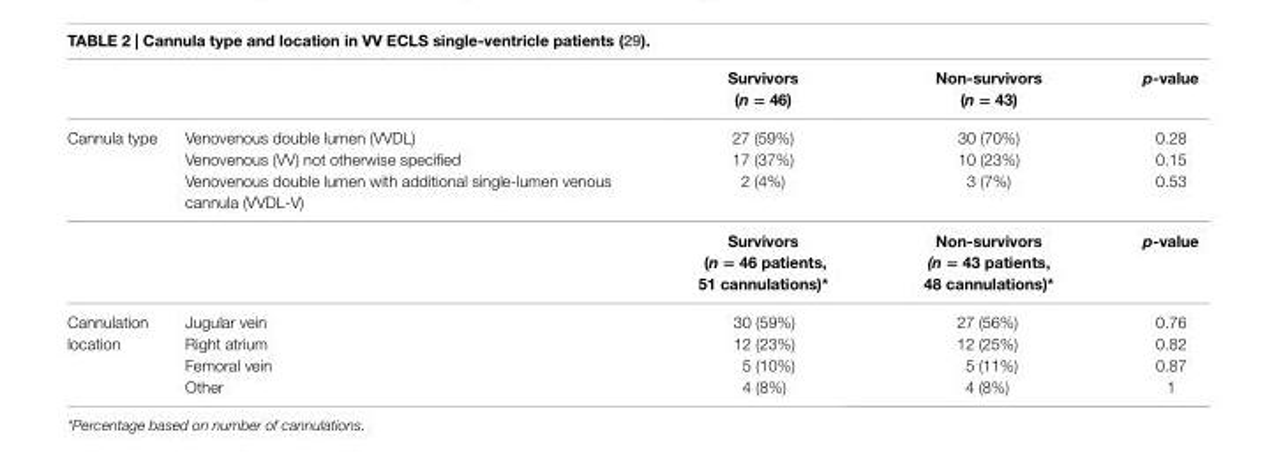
<table><thead><tr><td></td><td></td><td>Survivors (n = 46)</td><td>Non-survivors (n = 43)</td><td>p-value</td></tr></thead><tbody><tr><td rowspan="4">Cannula type</td><td>Venovenous double lumen (VVDL)</td><td>27 (59%)</td><td>30 (70%)</td><td>0.28</td></tr><tr><td>Venovenous (VV) not otherwise specified</td><td>17 (37%)</td><td>10 (23%)</td><td>0.15</td></tr><tr><td>Venovenous double lumen with additional single-lumen venous cannula (VVDL-V)</td><td>2 (4%)</td><td>3 (7%)</td><td>0.53</td></tr><tr><td></td><td>Survivors (n = 46 patients, 51 cannulations)*</td><td>Non-survivors (n = 43 patients, 48 cannulations)*</td><td>p-value</td></tr><tr><td rowspan="4">Cannulation location</td><td>Jugular vein</td><td>30 (59%)</td><td>27 (56%)</td><td>0.76</td></tr><tr><td>Right atrium</td><td>12 (23%)</td><td>12 (25%)</td><td>0.82</td></tr><tr><td>Femoral vein</td><td>5 (10%)</td><td>5 (11%)</td><td>0.87</td></tr><tr><td>Other</td><td>4 (8%)</td><td>4 (8%)</td><td>1</td></tr></tbody></table>